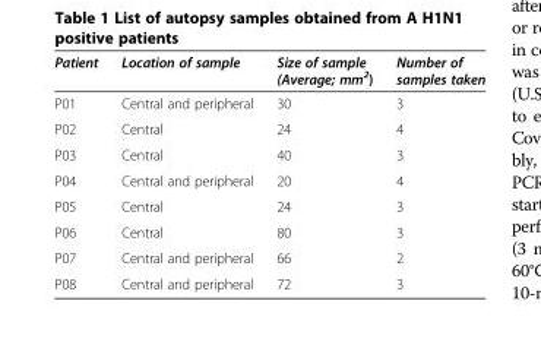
<table><thead><tr><td>Patient</td><td>Location of sample</td><td>Size of sample (Average; mm<sup>2</sup>)</td><td>Number of samples taken</td></tr></thead><tbody><tr><td>P01</td><td>Central and peripheral</td><td>30</td><td>3</td></tr><tr><td>P02</td><td>Central</td><td>24</td><td>4</td></tr><tr><td>P03</td><td>Central</td><td>40</td><td>3</td></tr><tr><td>P04</td><td>Central and peripheral</td><td>20</td><td>4</td></tr><tr><td>P05</td><td>Central</td><td>24</td><td>3</td></tr><tr><td>P06</td><td>Central</td><td>80</td><td>3</td></tr><tr><td>P07</td><td>Central and peripheral</td><td>66</td><td>2</td></tr><tr><td>P08</td><td>Central and peripheral</td><td>72</td><td>3</td></tr></tbody></table>